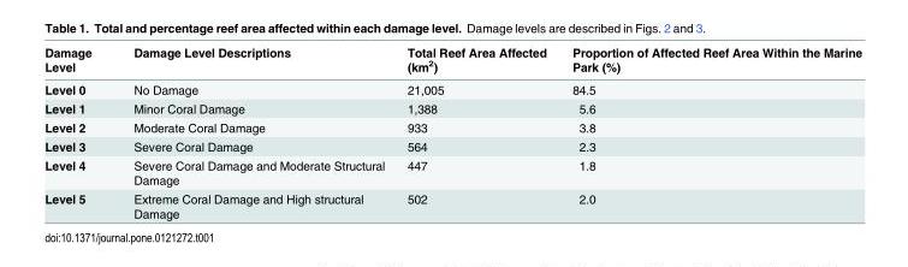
<table><thead><tr><td>Damage Level</td><td>Damage Level Descriptions</td><td>Total Reef Area Affected (km<sup>2</sup>)</td><td>Proportion of Affected Reef Area Within the Marine Park (%)</td></tr></thead><tbody><tr><td>Level 0</td><td>No Damage</td><td>21,005</td><td>84.5</td></tr><tr><td>Level 1</td><td>Minor Coral Damage</td><td>1,388</td><td>5.6</td></tr><tr><td>Level 2</td><td>Moderate Coral Damage</td><td>933</td><td>3.8</td></tr><tr><td>Level 3</td><td>Severe Coral Damage</td><td>564</td><td>2.3</td></tr><tr><td>Level 4</td><td>Severe Coral Damage and Moderate Structural Damage</td><td>447</td><td>1.8</td></tr><tr><td>Level 5</td><td>Extreme Coral Damage and High structural Damage</td><td>502</td><td>2.0</td></tr></tbody></table>